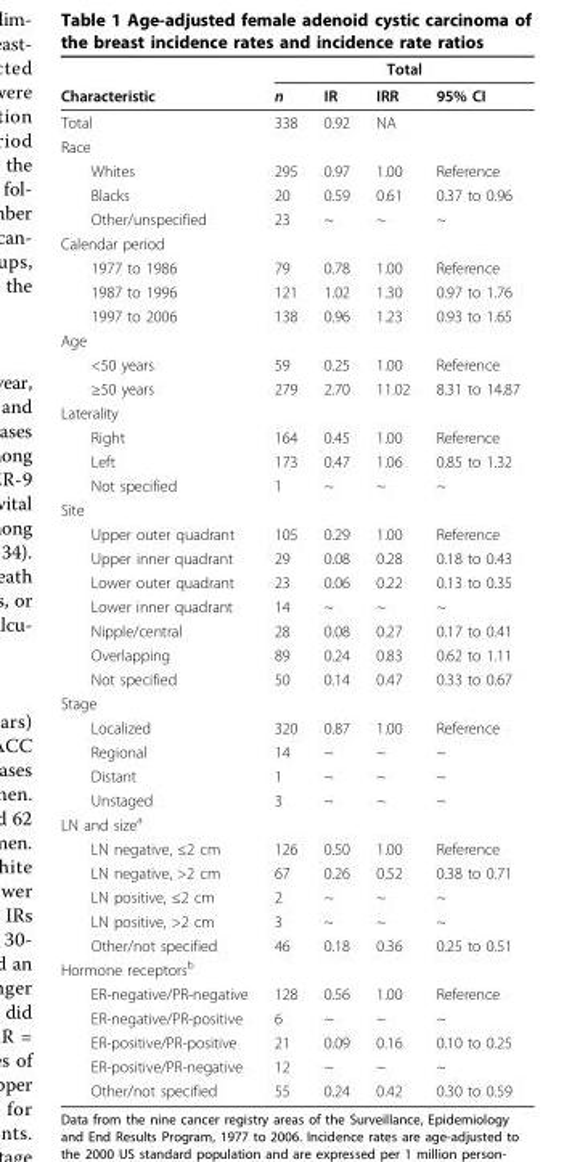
<table><thead><tr><td rowspan="2">Characteristic</td><td colspan="4">Total</td></tr><tr><td>n</td><td>IR</td><td>IRR</td><td>95% CI</td></tr></thead><tbody><tr><td>Total</td><td>338</td><td>0.92</td><td>NA</td><td></td></tr><tr><td colspan="5">Race</td></tr><tr><td>Whites</td><td>295</td><td>0.97</td><td>1.00</td><td>Reference</td></tr><tr><td>Blacks</td><td>20</td><td>0.59</td><td>0.61</td><td>0.37 to 0.96</td></tr><tr><td>Other/unspecified</td><td>23</td><td>~</td><td>~</td><td>~</td></tr><tr><td colspan="5">Calendar period</td></tr><tr><td>1977 to 1986</td><td>79</td><td>0.78</td><td>1.00</td><td>Reference</td></tr><tr><td>1987 to 1996</td><td>121</td><td>1.02</td><td>1.30</td><td>0.97 to 1.76</td></tr><tr><td>1997 to 2006</td><td>138</td><td>0.96</td><td>1.23</td><td>0.93 to 1.65</td></tr><tr><td colspan="5">Age</td></tr><tr><td>&lt;50 years</td><td>59</td><td>0.25</td><td>1.00</td><td>Reference</td></tr><tr><td>≥50 years</td><td>279</td><td>2.70</td><td>11.02</td><td>8.31 to 14.87</td></tr><tr><td colspan="5">Laterality</td></tr><tr><td>Right</td><td>164</td><td>0.45</td><td>1.00</td><td>Reference</td></tr><tr><td>Left</td><td>173</td><td>0.47</td><td>1.06</td><td>0.85 to 1.32</td></tr><tr><td>Not specified</td><td>1</td><td>~</td><td>~</td><td>~</td></tr><tr><td colspan="5">Site</td></tr><tr><td>Upper outer quadrant</td><td>105</td><td>0.29</td><td>1.00</td><td>Reference</td></tr><tr><td>Upper inner quadrant</td><td>29</td><td>0.08</td><td>0.28</td><td>0.18 to 0.43</td></tr><tr><td>Lower outer quadrant</td><td>23</td><td>0.06</td><td>0.22</td><td>0.13 to 0.35</td></tr><tr><td>Lower inner quadrant</td><td>14</td><td>~</td><td>~</td><td>~</td></tr><tr><td>Nipple/central</td><td>28</td><td>0.08</td><td>0.27</td><td>0.17 to 0.41</td></tr><tr><td>Overlapping</td><td>89</td><td>0.24</td><td>0.83</td><td>0.62 to 1.11</td></tr><tr><td>Not specified</td><td>50</td><td>0.14</td><td>0.47</td><td>0.33 to 0.67</td></tr><tr><td colspan="5">Stage</td></tr><tr><td>Localized</td><td>320</td><td>0.87</td><td>1.00</td><td>Reference</td></tr><tr><td>Regional</td><td>14</td><td>~</td><td>~</td><td>~</td></tr><tr><td>Distant</td><td>1</td><td>~</td><td>~</td><td>~</td></tr><tr><td>Unstaged</td><td>3</td><td>~</td><td>~</td><td>~</td></tr><tr><td colspan="5">LN and size<sup>a</sup></td></tr><tr><td>LN negative, ≤2 cm</td><td>126</td><td>0.50</td><td>1.00</td><td>Reference</td></tr><tr><td>LN negative, &gt;2 cm</td><td>67</td><td>0.26</td><td>0.52</td><td>0.38 to 0.71</td></tr><tr><td>LN positive, ≤2 cm</td><td>2</td><td>~</td><td>~</td><td>~</td></tr><tr><td>LN positive, &gt;2 cm</td><td>3</td><td>~</td><td>~</td><td>~</td></tr><tr><td>Other/not specified</td><td>46</td><td>0.18</td><td>0.36</td><td>0.25 to 0.51</td></tr><tr><td colspan="5">Hormone receptors<sup>b</sup></td></tr><tr><td>ER-negative/PR-negative</td><td>128</td><td>0.56</td><td>1.00</td><td>Reference</td></tr><tr><td>ER-negative/PR-positive</td><td>6</td><td>~</td><td>~</td><td>~</td></tr><tr><td>ER-positive/PR-positive</td><td>21</td><td>0.09</td><td>0.16</td><td>0.10 to 0.25</td></tr><tr><td>ER-positive/PR-negative</td><td>12</td><td>~</td><td>~</td><td>~</td></tr><tr><td>Other/not specified</td><td>55</td><td>0.24</td><td>0.42</td><td>0.30 to 0.59</td></tr></tbody></table>